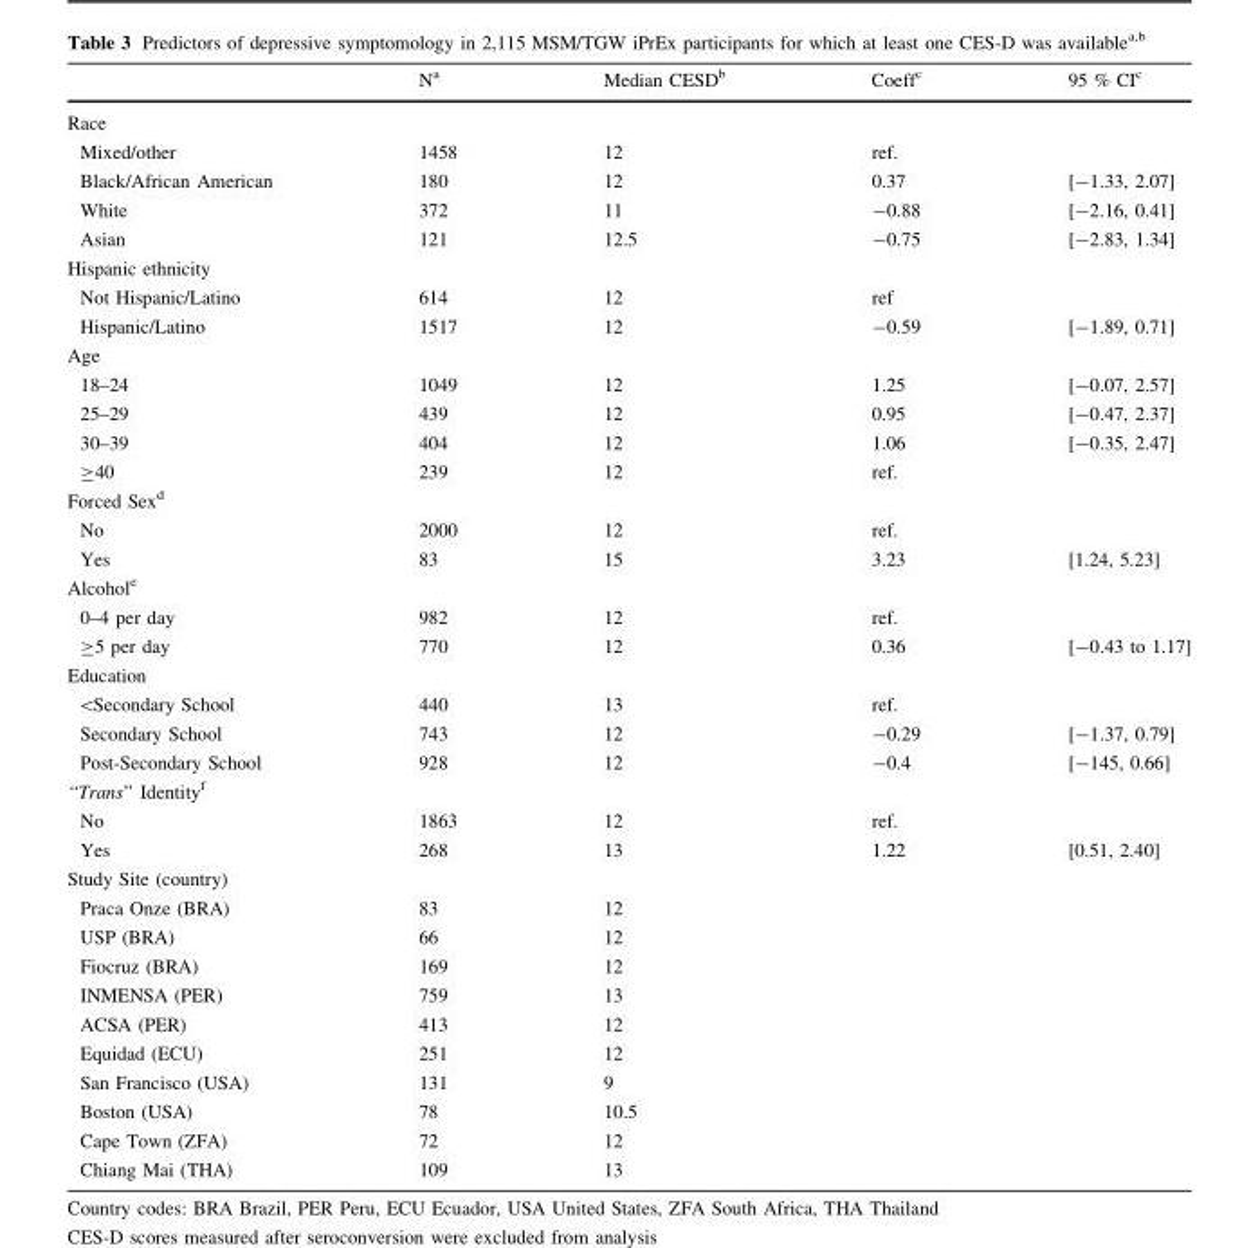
<table><thead><tr><td></td><td>N<sup>a</sup></td><td>Median CESD<sup>b</sup></td><td>Coeff<sup>c</sup></td><td>95 % CI<sup>c</sup></td></tr></thead><tbody><tr><td colspan="5">Race</td></tr><tr><td>Mixed/other</td><td>1458</td><td>12</td><td>ref.</td><td></td></tr><tr><td>Black/African American</td><td>180</td><td>12</td><td>0.37</td><td>[-1.33, 2.07]</td></tr><tr><td>White</td><td>372</td><td>11</td><td>-0.88</td><td>[-2.16, 0.41]</td></tr><tr><td>Asian</td><td>121</td><td>12.5</td><td>-0.75</td><td>[-2.83, 1.34]</td></tr><tr><td colspan="5">Hispanic ethnicity</td></tr><tr><td>Not Hispanic/Latino</td><td>614</td><td>12</td><td>ref</td><td></td></tr><tr><td>Hispanic/Latino</td><td>1517</td><td>12</td><td>-0.59</td><td>[-1.89, 0.71]</td></tr><tr><td colspan="5">Age</td></tr><tr><td>18–24</td><td>1049</td><td>12</td><td>1.25</td><td>[-0.07, 2.57]</td></tr><tr><td>25–29</td><td>439</td><td>12</td><td>0.95</td><td>[-0.47, 2.37]</td></tr><tr><td>30–39</td><td>404</td><td>12</td><td>1.06</td><td>[-0.35, 2.47]</td></tr><tr><td>≥40</td><td>239</td><td>12</td><td>ref.</td><td></td></tr><tr><td colspan="5">Forced Sex<sup>d</sup></td></tr><tr><td>No</td><td>2000</td><td>12</td><td>ref.</td><td></td></tr><tr><td>Yes</td><td>83</td><td>15</td><td>3.23</td><td>[1.24, 5.23]</td></tr><tr><td colspan="5">Alcohol<sup>e</sup></td></tr><tr><td>0–4 per day</td><td>982</td><td>12</td><td>ref.</td><td></td></tr><tr><td>≥5 per day</td><td>770</td><td>12</td><td>0.36</td><td>[-0.43 to 1.17]</td></tr><tr><td colspan="5">Education</td></tr><tr><td>&lt;Secondary School</td><td>440</td><td>13</td><td>ref.</td><td></td></tr><tr><td>Secondary School</td><td>743</td><td>12</td><td>-0.29</td><td>[-1.37, 0.79]</td></tr><tr><td>Post-Secondary School</td><td>928</td><td>12</td><td>-0.4</td><td>[-145, 0.66]</td></tr><tr><td colspan="5">‘‘Trans’’ Identityf</td></tr><tr><td>No</td><td>1863</td><td>12</td><td>ref.</td><td></td></tr><tr><td>Yes</td><td>268</td><td>13</td><td>1.22</td><td>[0.51, 2.40]</td></tr><tr><td colspan="5">Study Site (country)</td></tr><tr><td>Praca Onze (BRA)</td><td>83</td><td>12</td><td></td><td></td></tr><tr><td>USP (BRA)</td><td>66</td><td>12</td><td></td><td></td></tr><tr><td>Fiocruz (BRA)</td><td>169</td><td>12</td><td></td><td></td></tr><tr><td>INMENSA (PER)</td><td>759</td><td>13</td><td></td><td></td></tr><tr><td>ACSA (PER)</td><td>413</td><td>12</td><td></td><td></td></tr><tr><td>Equidad (ECU)</td><td>251</td><td>12</td><td></td><td></td></tr><tr><td>San Francisco (USA)</td><td>131</td><td>9</td><td></td><td></td></tr><tr><td>Boston (USA)</td><td>78</td><td>10.5</td><td></td><td></td></tr><tr><td>Cape Town (ZFA)</td><td>72</td><td>12</td><td></td><td></td></tr><tr><td>Chiang Mai (THA)</td><td>109</td><td>13</td><td></td><td></td></tr></tbody></table>